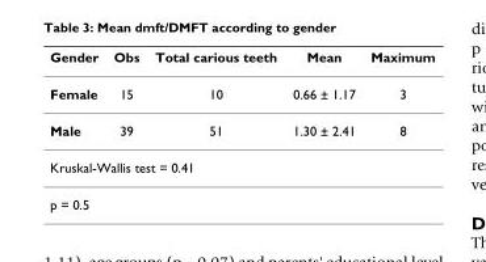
<table><thead><tr><td>Gender</td><td>Obs</td><td>Total carious teeth</td><td>Mean</td><td>Maximum</td></tr></thead><tbody><tr><td>Female</td><td>15</td><td>10</td><td>0.66 ± 1.17</td><td>3</td></tr><tr><td>Male</td><td>39</td><td>51</td><td>1.30 ± 2.41</td><td>8</td></tr><tr><td colspan="5">Kruskal-Wallis test = 0.41</td></tr><tr><td>p = 0.5</td><td></td><td></td><td></td><td></td></tr></tbody></table>